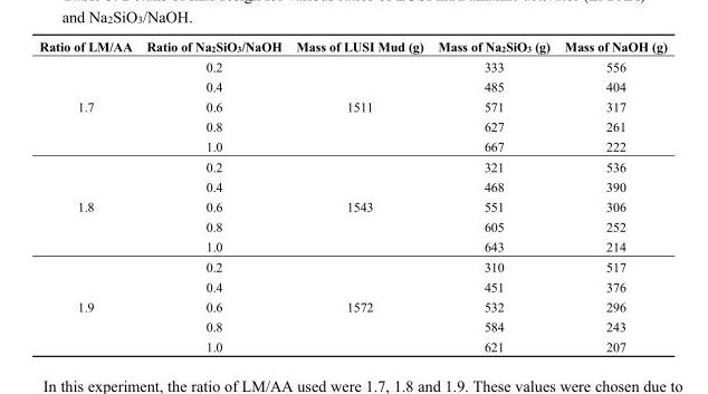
<table><thead><tr><td>Ratio of LM/AA</td><td>Ratio of Na<sub>2</sub>SiO<sub>3</sub>/NaOH</td><td>Mass of LUSI Mud (g)</td><td>Mass of Na<sub>2</sub>SiO<sub>3</sub> (g)</td><td>Mass of NaOH (g)</td></tr></thead><tbody><tr><td rowspan="5">1.7</td><td>0.2</td><td rowspan="5">1511</td><td>333</td><td>556</td></tr><tr><td>0.4</td><td>485</td><td>404</td></tr><tr><td>0.6</td><td>571</td><td>317</td></tr><tr><td>0.8</td><td>627</td><td>261</td></tr><tr><td>1.0</td><td>667</td><td>222</td></tr><tr><td rowspan="5">1.8</td><td>0.2</td><td rowspan="5">1543</td><td>321</td><td>536</td></tr><tr><td>0.4</td><td>468</td><td>390</td></tr><tr><td>0.6</td><td>551</td><td>306</td></tr><tr><td>0.8</td><td>605</td><td>252</td></tr><tr><td>1.0</td><td>643</td><td>214</td></tr><tr><td rowspan="5">1.9</td><td>0.2</td><td rowspan="5">1572</td><td>310</td><td>517</td></tr><tr><td>0.4</td><td>451</td><td>376</td></tr><tr><td>0.6</td><td>532</td><td>296</td></tr><tr><td>0.8</td><td>584</td><td>243</td></tr><tr><td>1.0</td><td>621</td><td>207</td></tr></tbody></table>